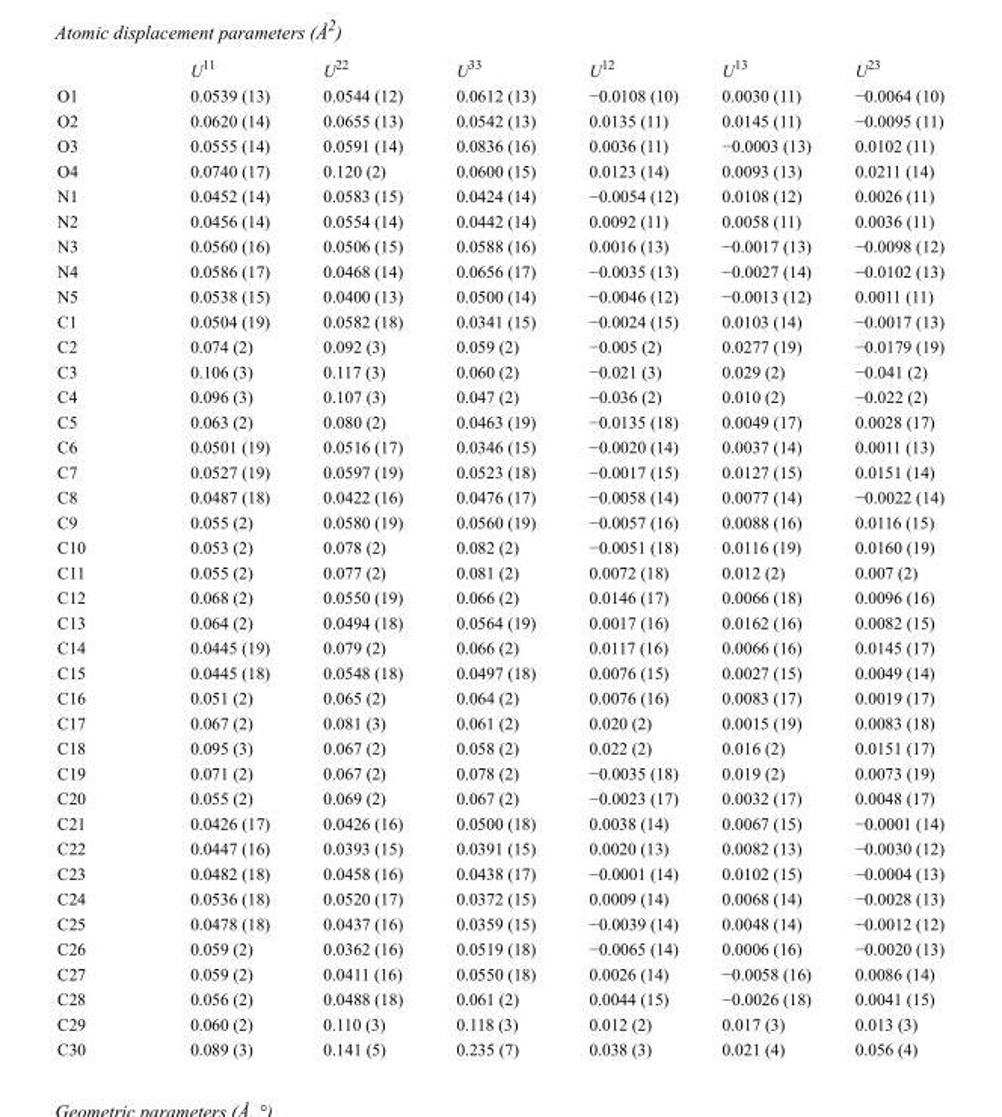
<table><thead><tr><td></td><td>U<sup>11</sup></td><td>U<sup>22</sup></td><td>U<sup>33</sup></td><td>U<sup>12</sup></td><td>U<sup>13</sup></td><td>U<sup>23</sup></td></tr></thead><tbody><tr><td>O1</td><td>0.0539 (13)</td><td>0.0544 (12)</td><td>0.0612 (13)</td><td>−0.0108 (10)</td><td>0.0030 (11)</td><td>−0.0064 (10)</td></tr><tr><td>O2</td><td>0.0620 (14)</td><td>0.0655 (13)</td><td>0.0542 (13)</td><td>0.0135 (11)</td><td>0.0145 (11)</td><td>−0.0095 (11)</td></tr><tr><td>O3</td><td>0.0555 (14)</td><td>0.0591 (14)</td><td>0.0836 (16)</td><td>0.0036 (11)</td><td>−0.0003 (13)</td><td>0.0102 (11)</td></tr><tr><td>O4</td><td>0.0740 (17)</td><td>0.120 (2)</td><td>0.0600 (15)</td><td>0.0123 (14)</td><td>0.0093 (13)</td><td>0.0211 (14)</td></tr><tr><td>N1</td><td>0.0452 (14)</td><td>0.0583 (15)</td><td>0.0424 (14)</td><td>−0.0054 (12)</td><td>0.0108 (12)</td><td>0.0026 (11)</td></tr><tr><td>N2</td><td>0.0456 (14)</td><td>0.0554 (14)</td><td>0.0442 (14)</td><td>0.0092 (11)</td><td>0.0058 (11)</td><td>0.0036 (11)</td></tr><tr><td>N3</td><td>0.0560 (16)</td><td>0.0506 (15)</td><td>0.0588 (16)</td><td>0.0016 (13)</td><td>−0.0017 (13)</td><td>−0.0098 (12)</td></tr><tr><td>N4</td><td>0.0586 (17)</td><td>0.0468 (14)</td><td>0.0656 (17)</td><td>−0.0035 (13)</td><td>−0.0027 (14)</td><td>−0.0102 (13)</td></tr><tr><td>N5</td><td>0.0538 (15)</td><td>0.0400 (13)</td><td>0.0500 (14)</td><td>−0.0046 (12)</td><td>−0.0013 (12)</td><td>0.0011 (11)</td></tr><tr><td>C1</td><td>0.0504 (19)</td><td>0.0582 (18)</td><td>0.0341 (15)</td><td>−0.0024 (15)</td><td>0.0103 (14)</td><td>−0.0017 (13)</td></tr><tr><td>C2</td><td>0.074 (2)</td><td>0.092 (3)</td><td>0.059 (2)</td><td>−0.005 (2)</td><td>0.0277 (19)</td><td>−0.0179 (19)</td></tr><tr><td>C3</td><td>0.106 (3)</td><td>0.117 (3)</td><td>0.060 (2)</td><td>−0.021 (3)</td><td>0.029 (2)</td><td>−0.041 (2)</td></tr><tr><td>C4</td><td>0.096 (3)</td><td>0.107 (3)</td><td>0.047 (2)</td><td>−0.036 (2)</td><td>0.010 (2)</td><td>−0.022 (2)</td></tr><tr><td>C5</td><td>0.063 (2)</td><td>0.080 (2)</td><td>0.0463 (19)</td><td>−0.0135 (18)</td><td>0.0049 (17)</td><td>0.0028 (17)</td></tr><tr><td>C6</td><td>0.0501 (19)</td><td>0.0516 (17)</td><td>0.0346 (15)</td><td>−0.0020 (14)</td><td>0.0037 (14)</td><td>0.0011 (13)</td></tr><tr><td>C7</td><td>0.0527 (19)</td><td>0.0597 (19)</td><td>0.0523 (18)</td><td>−0.0017 (15)</td><td>0.0127 (15)</td><td>0.0151 (14)</td></tr><tr><td>C8</td><td>0.0487 (18)</td><td>0.0422 (16)</td><td>0.0476 (17)</td><td>−0.0058 (14)</td><td>0.0077 (14)</td><td>−0.0022 (14)</td></tr><tr><td>C9</td><td>0.055 (2)</td><td>0.0580 (19)</td><td>0.0560 (19)</td><td>−0.0057 (16)</td><td>0.0088 (16)</td><td>0.0116 (15)</td></tr><tr><td>C10</td><td>0.053 (2)</td><td>0.078 (2)</td><td>0.082 (2)</td><td>−0.0051 (18)</td><td>0.0116 (19)</td><td>0.0160 (19)</td></tr><tr><td>C11</td><td>0.055 (2)</td><td>0.077 (2)</td><td>0.081 (2)</td><td>0.0072 (18)</td><td>0.012 (2)</td><td>0.007 (2)</td></tr><tr><td>C12</td><td>0.068 (2)</td><td>0.0550 (19)</td><td>0.066 (2)</td><td>0.0146 (17)</td><td>0.0066 (18)</td><td>0.0096 (16)</td></tr><tr><td>C13</td><td>0.064 (2)</td><td>0.0494 (18)</td><td>0.0564 (19)</td><td>0.0017 (16)</td><td>0.0162 (16)</td><td>0.0082 (15)</td></tr><tr><td>C14</td><td>0.0445 (19)</td><td>0.079 (2)</td><td>0.066 (2)</td><td>0.0117 (16)</td><td>0.0066 (16)</td><td>0.0145 (17)</td></tr><tr><td>C15</td><td>0.0445 (18)</td><td>0.0548 (18)</td><td>0.0497 (18)</td><td>0.0076 (15)</td><td>0.0027 (15)</td><td>0.0049 (14)</td></tr><tr><td>C16</td><td>0.051 (2)</td><td>0.065 (2)</td><td>0.064 (2)</td><td>0.0076 (16)</td><td>0.0083 (17)</td><td>0.0019 (17)</td></tr><tr><td>C17</td><td>0.067 (2)</td><td>0.081 (3)</td><td>0.061 (2)</td><td>0.020 (2)</td><td>0.0015 (19)</td><td>0.0083 (18)</td></tr><tr><td>C18</td><td>0.095 (3)</td><td>0.067 (2)</td><td>0.058 (2)</td><td>0.022 (2)</td><td>0.016 (2)</td><td>0.0151 (17)</td></tr><tr><td>C19</td><td>0.071 (2)</td><td>0.067 (2)</td><td>0.078 (2)</td><td>−0.0035 (18)</td><td>0.019 (2)</td><td>0.0073 (19)</td></tr><tr><td>C20</td><td>0.055 (2)</td><td>0.069 (2)</td><td>0.067 (2)</td><td>−0.0023 (17)</td><td>0.0032 (17)</td><td>0.0048 (17)</td></tr><tr><td>C21</td><td>0.0426 (17)</td><td>0.0426 (16)</td><td>0.0500 (18)</td><td>0.0038 (14)</td><td>0.0067 (15)</td><td>−0.0001 (14)</td></tr><tr><td>C22</td><td>0.0447 (16)</td><td>0.0393 (15)</td><td>0.0391 (15)</td><td>0.0020 (13)</td><td>0.0082 (13)</td><td>−0.0030 (12)</td></tr><tr><td>C23</td><td>0.0482 (18)</td><td>0.0458 (16)</td><td>0.0438 (17)</td><td>−0.0001 (14)</td><td>0.0102 (15)</td><td>−0.0004 (13)</td></tr><tr><td>C24</td><td>0.0536 (18)</td><td>0.0520 (17)</td><td>0.0372 (15)</td><td>0.0009 (14)</td><td>0.0068 (14)</td><td>−0.0028 (13)</td></tr><tr><td>C25</td><td>0.0478 (18)</td><td>0.0437 (16)</td><td>0.0359 (15)</td><td>−0.0039 (14)</td><td>0.0048 (14)</td><td>−0.0012 (12)</td></tr><tr><td>C26</td><td>0.059 (2)</td><td>0.0362 (16)</td><td>0.0519 (18)</td><td>−0.0065 (14)</td><td>0.0006 (16)</td><td>−0.0020 (13)</td></tr><tr><td>C27</td><td>0.059 (2)</td><td>0.0411 (16)</td><td>0.0550 (18)</td><td>0.0026 (14)</td><td>−0.0058 (16)</td><td>0.0086 (14)</td></tr><tr><td>C28</td><td>0.056 (2)</td><td>0.0488 (18)</td><td>0.061 (2)</td><td>0.0044 (15)</td><td>−0.0026 (18)</td><td>0.0041 (15)</td></tr><tr><td>C29</td><td>0.060 (2)</td><td>0.110 (3)</td><td>0.118 (3)</td><td>0.012 (2)</td><td>0.017 (3)</td><td>0.013 (3)</td></tr><tr><td>C30</td><td>0.089 (3)</td><td>0.141 (5)</td><td>0.235 (7)</td><td>0.038 (3)</td><td>0.021 (4)</td><td>0.056 (4)</td></tr></tbody></table>